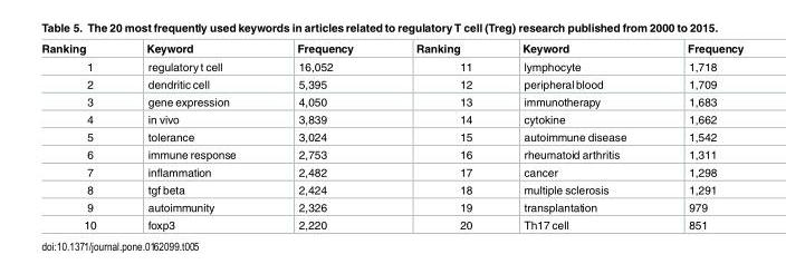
<table><thead><tr><td>Ranking</td><td>Keyword</td><td>Frequency</td><td>Ranking</td><td>Keyword</td><td>Frequency</td></tr></thead><tbody><tr><td>1</td><td>regulatoryt cell</td><td>16,052</td><td>11</td><td>lymphocyte</td><td>1,718</td></tr><tr><td>2</td><td>dendritic cell</td><td>5,395</td><td>12</td><td>peripheral blood</td><td>1,709</td></tr><tr><td>3</td><td>gene expression</td><td>4,050</td><td>13</td><td>immunotherapy</td><td>1,683</td></tr><tr><td>4</td><td>in vivo</td><td>3,839</td><td>14</td><td>cytokine</td><td>1,662</td></tr><tr><td>5</td><td>tolerance</td><td>3,024</td><td>15</td><td>autoimmune disease</td><td>1,542</td></tr><tr><td>6</td><td>immune response</td><td>2,753</td><td>16</td><td>rheumatoid arthritis</td><td>1,311</td></tr><tr><td>7</td><td>inflammation</td><td>2,482</td><td>17</td><td>cancer</td><td>1,298</td></tr><tr><td>8</td><td>tgf beta</td><td>2,424</td><td>18</td><td>multiple sclerosis</td><td>1,291</td></tr><tr><td>9</td><td>autoimmunity</td><td>2,326</td><td>19</td><td>transplantation</td><td>979</td></tr><tr><td>10</td><td>foxp3</td><td>2,220</td><td>20</td><td>Th17 cell</td><td>851</td></tr></tbody></table>